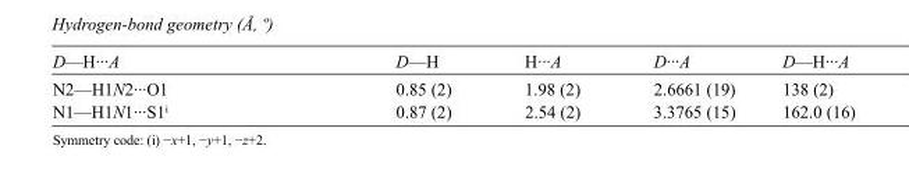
<table><tbody><tr><td>D—H···A</td><td>D—H</td><td>H···A</td><td>D···A</td><td>D—H···A</td></tr><tr><td>N2—H1N2···O1</td><td>0.85 (2)</td><td>1.98 (2)</td><td>2.6661 (19)</td><td>138 (2)</td></tr><tr><td>N1—H1N1···S1<sup>i</sup></td><td>0.87 (2)</td><td>2.54 (2)</td><td>3.3765 (15)</td><td>162.0 (16)</td></tr></tbody></table>